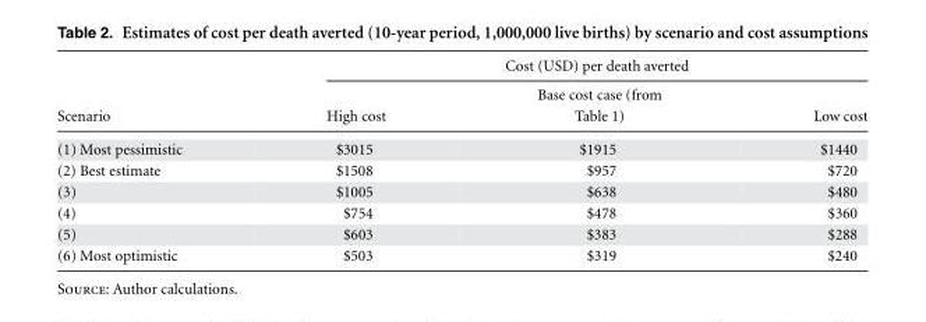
<table><thead><tr><td rowspan="2">Scenario</td><td colspan="3">Cost (USD) per death averted</td></tr><tr><td>High cost</td><td>Base cost case (from Table 1)</td><td>Low cost</td></tr></thead><tbody><tr><td>(1) Most pessimistic</td><td>$3015</td><td>$1915</td><td>$1440</td></tr><tr><td>(2) Best estimate</td><td>$1508</td><td>$957</td><td>$720</td></tr><tr><td>(3)</td><td>$1005</td><td>$638</td><td>$480</td></tr><tr><td>(4)</td><td>$754</td><td>$478</td><td>$360</td></tr><tr><td>(5)</td><td>$603</td><td>$383</td><td>$288</td></tr><tr><td>(6) Most optimistic</td><td>$503</td><td>$319</td><td>$240</td></tr></tbody></table>